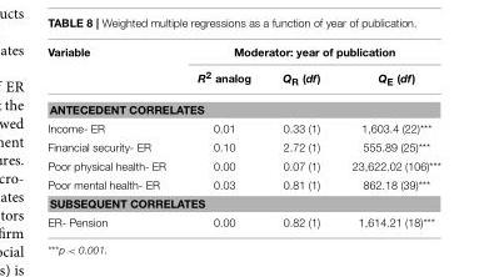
<table><thead><tr><td rowspan="2">Variable</td><td colspan="3">Moderator: year of publication</td></tr><tr><td>R<sup>2</sup> analog</td><td>Q<sub>R</sub> (df)</td><td>Q<sub>E</sub> (df)</td></tr></thead><tbody><tr><td colspan="4">ANTECEDENT CORRELATES</td></tr><tr><td>Income- ER</td><td>0.01</td><td>0.33 (1)</td><td>1,603.4 (22)***</td></tr><tr><td>Financial security- ER</td><td>0.10</td><td>2.72 (1)</td><td>555.89 (25)***</td></tr><tr><td>Poor physical health- ER</td><td>0.00</td><td>0.07 (1)</td><td>23,622.02 (106)***</td></tr><tr><td>Poor mental health- ER</td><td>0.03</td><td>0.81 (1)</td><td>862.18 (39)***</td></tr><tr><td colspan="4">SUBSEQUENT CORRELATES</td></tr><tr><td>ER- Pension</td><td>0.00</td><td>0.82 (1)</td><td>1,614.21 (18)***</td></tr></tbody></table>